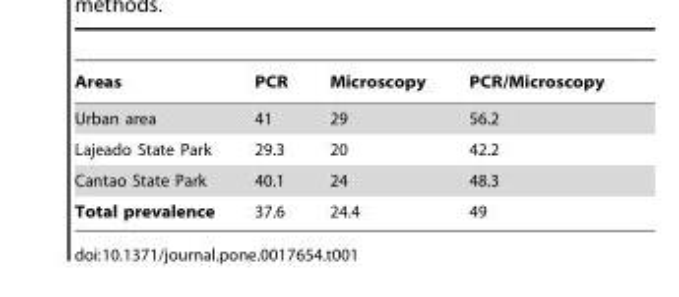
<table><thead><tr><td>Areas</td><td>PCR</td><td>Microscopy</td><td>PCR/Microscopy</td></tr></thead><tbody><tr><td>Urban area</td><td>41</td><td>29</td><td>56.2</td></tr><tr><td>Lajeado State Park</td><td>29.3</td><td>20</td><td>42.2</td></tr><tr><td>Cantao State Park</td><td>40.1</td><td>24</td><td>48.3</td></tr><tr><td>Total prevalence</td><td>37.6</td><td>24.4</td><td>49</td></tr></tbody></table>